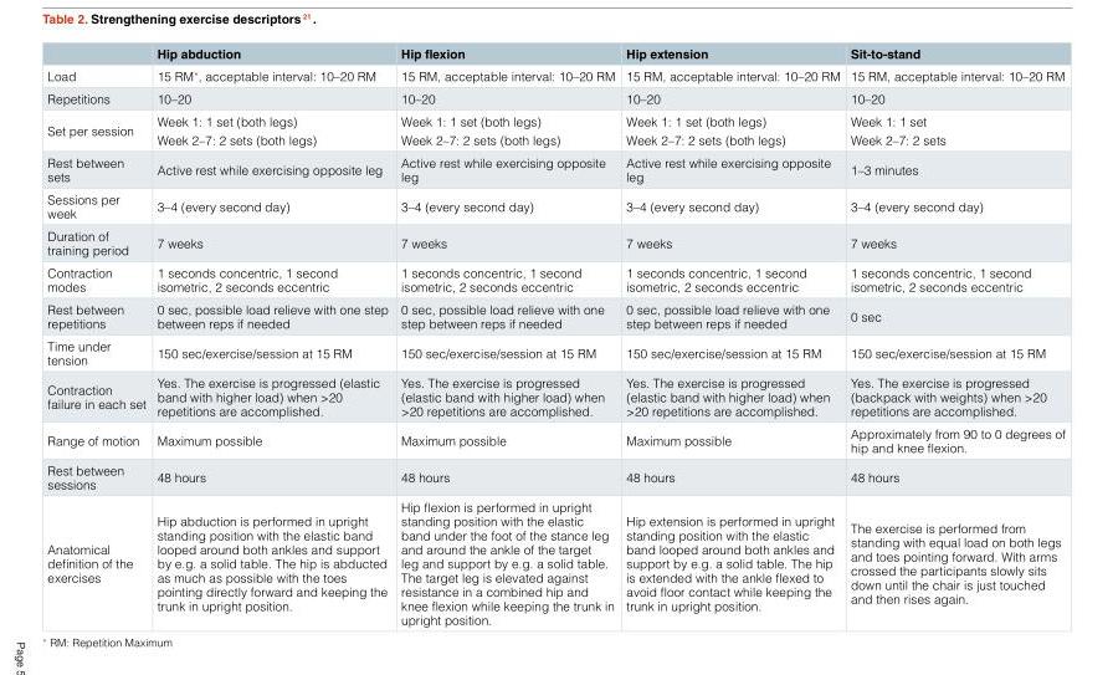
<table><thead><tr><td></td><td>Hip abduction</td><td>Hip flexion</td><td>Hip extension</td><td>Sit-to-stand</td></tr></thead><tbody><tr><td>Load</td><td>15 RM*, acceptable interval: 10–20 RM</td><td>15 RM, acceptable interval: 10–20 RM</td><td>15 RM, acceptable interval: 10–20 RM</td><td>15 RM, acceptable interval: 10–20 RM</td></tr><tr><td>Repetitions</td><td>10–20</td><td>10–20</td><td>10–20</td><td>10–20</td></tr><tr><td>Set per session</td><td>Week 1: 1 set (both legs) Week 2–7: 2 sets (both legs)</td><td>Week 1: 1 set (both legs) Week 2–7: 2 sets (both legs)</td><td>Week 1: 1 set (both legs) Week 2–7: 2 sets (both legs)</td><td>Week 1: 1 set Week 2–7: 2 sets</td></tr><tr><td>Rest between sets</td><td>Active rest while exercising opposite leg</td><td>Active rest while exercising opposite leg</td><td>Active rest while exercising opposite leg</td><td>1–3 minutes</td></tr><tr><td>Sessions per week</td><td>3–4 (every second day)</td><td>3–4 (every second day)</td><td>3–4 (every second day)</td><td>3–4 (every second day)</td></tr><tr><td>Duration of training period</td><td>7 weeks</td><td>7 weeks</td><td>7 weeks</td><td>7 weeks</td></tr><tr><td>Contraction modes</td><td>1 seconds concentric, 1 second isometric, 2 seconds eccentric</td><td>1 seconds concentric, 1 second isometric, 2 seconds eccentric</td><td>1 seconds concentric, 1 second isometric, 2 seconds eccentric</td><td>1 seconds concentric, 1 second isometric, 2 seconds eccentric</td></tr><tr><td>Rest between repetitions</td><td>0 sec, possible load relieve with one step between reps if needed</td><td>0 sec, possible load relieve with one step between reps if needed</td><td>0 sec, possible load relieve with one step between reps if needed</td><td>0 sec</td></tr><tr><td>Time under tension</td><td>150 sec/exercise/session at 15 RM</td><td>150 sec/exercise/session at 15 RM</td><td>150 sec/exercise/session at 15 RM</td><td>150 sec/exercise/session at 15 RM</td></tr><tr><td>Contraction failure in each set</td><td>Yes. The exercise is progressed (elastic band with higher load) when &gt;20 repetitions are accomplished.</td><td>Yes. The exercise is progressed (elastic band with higher load) when &gt;20 repetitions are accomplished.</td><td>Yes. The exercise is progressed (elastic band with higher load) when &gt;20 repetitions are accomplished.</td><td>Yes. The exercise is progressed (backpack with weights) when &gt;20 repetitions are accomplished.</td></tr><tr><td>Range of motion</td><td>Maximum possible</td><td>Maximum possible</td><td>Maximum possible</td><td>Approximately from 90 to 0 degrees of hip and knee flexion.</td></tr><tr><td>Rest between sessions</td><td>48 hours</td><td>48 hours</td><td>48 hours</td><td>48 hours</td></tr><tr><td>Anatomical definition of the exercises</td><td>Hip abduction is performed in upright standing position with the elastic band looped around both ankles and support by e.g. a solid table. The hip is abducted as much as possible with the toes pointing directly forward and keeping the trunk in upright position.</td><td>Hip flexion is performed in upright standing position with the elastic band under the foot of the stance leg and around the ankle of the target leg and support by e.g. a solid table. The target leg is elevated against resistance in a combined hip and knee flexion while keeping the trunk in upright position.</td><td>Hip extension is performed in upright standing position with the elastic band looped around both ankles and support by e.g. a solid table. The hip is extended with the ankle flexed to avoid floor contact while keeping the trunk in upright position.</td><td>The exercise is performed from standing with equal load on both legs and toes pointing forward. With arms crossed the participants slowly sits down until the chair is just touched and then rises again.</td></tr></tbody></table>